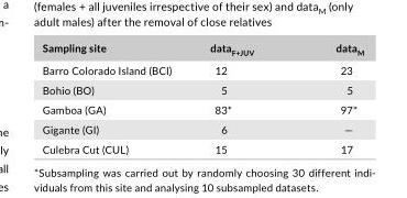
<table><thead><tr><td>Samplingsite</td><td>data<sub>F+JUV</sub></td><td>data<sub>M</sub></td></tr></thead><tbody><tr><td>Barro Colorado Island (BCI)</td><td>12</td><td>23</td></tr><tr><td>Bohio (BO)</td><td>5</td><td>5</td></tr><tr><td>Gamboa (GA)</td><td>83*</td><td>97*</td></tr><tr><td>Gigante (GI)</td><td>6</td><td>—</td></tr><tr><td>Culebra Cut (CUL)</td><td>15</td><td>17</td></tr></tbody></table>